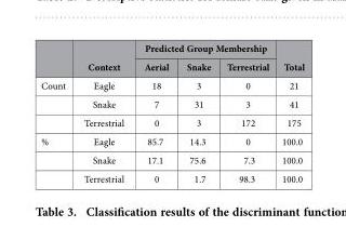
<table><thead><tr><td rowspan="2"></td><td rowspan="2">Context</td><td colspan="3">Predicted Group Membership</td><td rowspan="2">Total</td></tr><tr><td>Aerial</td><td>Snake</td><td>Terrestrial</td></tr></thead><tbody><tr><td rowspan="3">Count</td><td>Eagle</td><td>18</td><td>3</td><td>0</td><td>21</td></tr><tr><td>Snake</td><td>7</td><td>31</td><td>3</td><td>41</td></tr><tr><td>Terrestrial</td><td>0</td><td>3</td><td>172</td><td>175</td></tr><tr><td rowspan="3">%</td><td>Eagle</td><td>85.7</td><td>14.3</td><td>0</td><td>100.0</td></tr><tr><td>Snake</td><td>17.1</td><td>75.6</td><td>7.3</td><td>100.0</td></tr><tr><td>Terrestrial</td><td>0</td><td>1.7</td><td>98.3</td><td>100.0</td></tr></tbody></table>